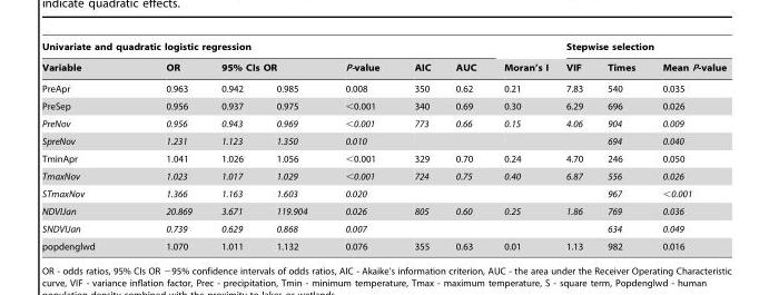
<table><thead><tr><td colspan="7">Univariate and quadratic logistic regression</td><td rowspan="3">Moran’s I 0.21</td><td colspan="3">Stepwise selection</td></tr><tr><td rowspan="2">Variable PreApr</td><td rowspan="2">OR 0.963</td><td colspan="2">95% CIs OR</td><td rowspan="2">P-value 0.008</td><td rowspan="2">AIC 350</td><td rowspan="2">AUC 0.62</td><td rowspan="2">VIF 7.83</td><td rowspan="2">Times 540</td><td rowspan="2">Mean P-value 0.035</td></tr><tr><td>0.942</td><td>0.985</td></tr></thead><tbody><tr><td>PreSep</td><td>0.956</td><td>0.937</td><td>0.975</td><td>&lt;0.001</td><td>340</td><td>0.69</td><td>0.30</td><td>6.29</td><td>696</td><td>0.026</td></tr><tr><td>PreNov</td><td>0.956</td><td>0.943</td><td>0.969</td><td>&lt;0.001</td><td>773</td><td>0.66</td><td>0.15</td><td>4.06</td><td>904</td><td>0.009</td></tr><tr><td>SpreNov</td><td>1.231</td><td>1.123</td><td>1.350</td><td>0.010</td><td></td><td></td><td></td><td></td><td>694</td><td>0.040</td></tr><tr><td>TminApr</td><td>1.041</td><td>1.026</td><td>1.056</td><td>&lt;0.001</td><td>329</td><td>0.70</td><td>0.24</td><td>4.70</td><td>246</td><td>0.050</td></tr><tr><td>TmaxNov</td><td>1.023</td><td>1.017</td><td>1.029</td><td>&lt;0.001</td><td>724</td><td>0.75</td><td>0.40</td><td>6.87</td><td>556</td><td>0.026</td></tr><tr><td>STmaxNov</td><td>1.366</td><td>1.163</td><td>1.603</td><td>0.020</td><td></td><td></td><td></td><td></td><td>967</td><td>&lt;0.001</td></tr><tr><td>NDVIJan</td><td>20.869</td><td>3.671</td><td>119.904</td><td>0.026</td><td>805</td><td>0.60</td><td>0.25</td><td>1.86</td><td>769</td><td>0.036</td></tr><tr><td>SNDVIJan</td><td>0.739</td><td>0.629</td><td>0.868</td><td>0.007</td><td></td><td></td><td></td><td></td><td>634</td><td>0.049</td></tr><tr><td>popdenglwd</td><td>1.070</td><td>1.011</td><td>1.132</td><td>0.076</td><td>355</td><td>0.63</td><td>0.01</td><td>1.13</td><td>982</td><td>0.016</td></tr></tbody></table>